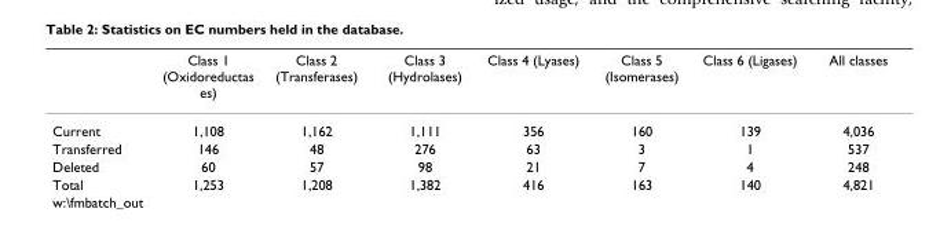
<table><thead><tr><td></td><td>Class 1 (Oxidoreductas es)</td><td>Class 2 (Transferases)</td><td>Class 3 (Hydrolases)</td><td>Class 4 (Lyases)</td><td>Class 5 (Isomerases)</td><td>Class 6 (Ligases)</td><td>All classes</td></tr></thead><tbody><tr><td>Current</td><td>1,108</td><td>1,162</td><td>1,111</td><td>356</td><td>160</td><td>139</td><td>4,036</td></tr><tr><td>Transferred</td><td>146</td><td>48</td><td>276</td><td>63</td><td>3</td><td>1</td><td>537</td></tr><tr><td>Deleted</td><td>60</td><td>57</td><td>98</td><td>21</td><td>7</td><td>4</td><td>248</td></tr><tr><td>Total</td><td>1,253</td><td>1,208</td><td>1,382</td><td>416</td><td>163</td><td>140</td><td>4,821</td></tr></tbody></table>